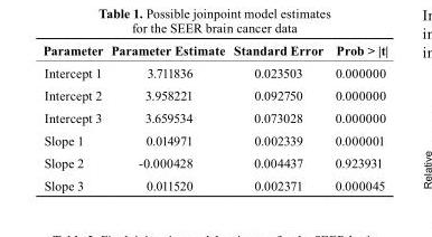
<table><thead><tr><td>Parameter</td><td>Parameter estimate</td><td>standard error</td><td>Prob &gt; |t|</td></tr></thead><tbody><tr><td>Intercept 1</td><td>3.711836</td><td>0.023503</td><td>0.000000</td></tr><tr><td>Intercept 2</td><td>3.958221</td><td>0.092750</td><td>0.000000</td></tr><tr><td>Intercept 3</td><td>3.659534</td><td>0.073028</td><td>0.000000</td></tr><tr><td>Slope 1</td><td>0.014971</td><td>0.002339</td><td>0.000001</td></tr><tr><td>Slope 2</td><td>-0.000428</td><td>0.004437</td><td>0.923931</td></tr><tr><td>Slope 3</td><td>0.011520</td><td>0.002371</td><td>0.000045</td></tr></tbody></table>